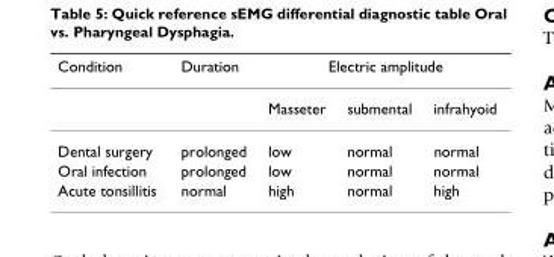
<table><thead><tr><td rowspan="2">Condition</td><td rowspan="2">Duration</td><td colspan="3">Electric amplitude</td></tr><tr><td>Masseter</td><td>submental</td><td>infrahyoid</td></tr></thead><tbody><tr><td>Dental surgery</td><td>prolonged</td><td>low</td><td>normal</td><td>normal</td></tr><tr><td>Oral infection</td><td>prolonged</td><td>low</td><td>normal</td><td>normal</td></tr><tr><td>Acute tonsillitis</td><td>normal</td><td>high</td><td>normal</td><td>high</td></tr></tbody></table>